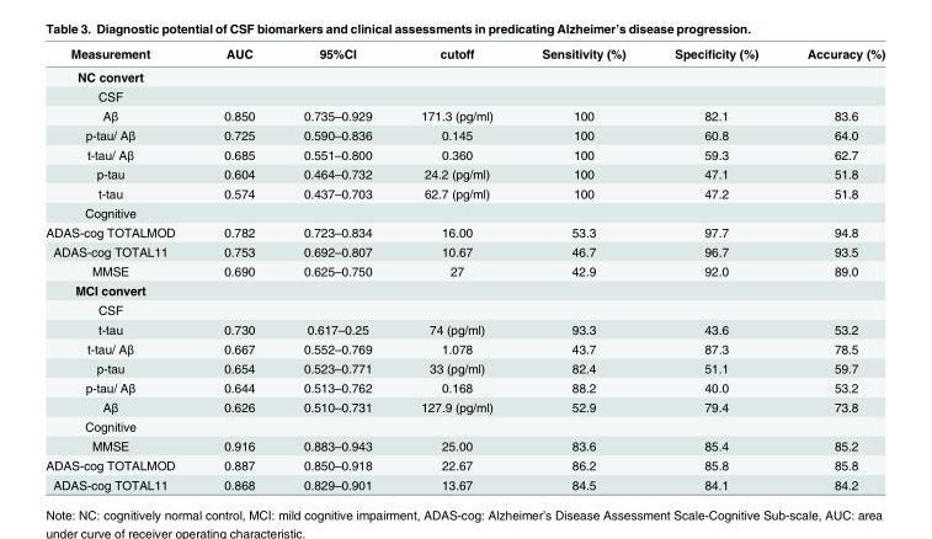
<table><thead><tr><td>Measurement</td><td>AUC</td><td>95%CI</td><td>cutoff</td><td>Sensitivity (%)</td><td>Specificity (%)</td><td>Accuracy (%)</td></tr></thead><tbody><tr><td colspan="7">NC convert</td></tr><tr><td colspan="7">CSF</td></tr><tr><td>Aβ</td><td>0.850</td><td>0.735–0.929</td><td>171.3 (pg/ml)</td><td>100</td><td>82.1</td><td>83.6</td></tr><tr><td>p-tau/ Aβ</td><td>0.725</td><td>0.590–0.836</td><td>0.145</td><td>100</td><td>60.8</td><td>64.0</td></tr><tr><td>t-tau/ Aβ</td><td>0.685</td><td>0.551–0.800</td><td>0.360</td><td>100</td><td>59.3</td><td>62.7</td></tr><tr><td>p-tau</td><td>0.604</td><td>0.464–0.732</td><td>24.2 (pg/ml)</td><td>100</td><td>47.1</td><td>51.8</td></tr><tr><td>t-tau</td><td>0.574</td><td>0.437–0.703</td><td>62.7 (pg/ml)</td><td>100</td><td>47.2</td><td>51.8</td></tr><tr><td colspan="7">Cognitive</td></tr><tr><td>ADAS-cog TOTALMOD</td><td>0.782</td><td>0.723–0.834</td><td>16.00</td><td>53.3</td><td>97.7</td><td>94.8</td></tr><tr><td>ADAS-cog TOTAL11</td><td>0.753</td><td>0.692–0.807</td><td>10.67</td><td>46.7</td><td>96.7</td><td>93.5</td></tr><tr><td>MMSE</td><td>0.690</td><td>0.625–0.750</td><td>27</td><td>42.9</td><td>92.0</td><td>89.0</td></tr><tr><td colspan="7">MCI convert</td></tr><tr><td colspan="7">CSF</td></tr><tr><td>t-tau</td><td>0.730</td><td>0.617–0.25</td><td>74 (pg/ml)</td><td>93.3</td><td>43.6</td><td>53.2</td></tr><tr><td>t-tau/ Aβ</td><td>0.667</td><td>0.552–0.769</td><td>1.078</td><td>43.7</td><td>87.3</td><td>78.5</td></tr><tr><td>p-tau</td><td>0.654</td><td>0.523–0.771</td><td>33 (pg/ml)</td><td>82.4</td><td>51.1</td><td>59.7</td></tr><tr><td>p-tau/ Aβ</td><td>0.644</td><td>0.513–0.762</td><td>0.168</td><td>88.2</td><td>40.0</td><td>53.2</td></tr><tr><td>Aβ</td><td>0.626</td><td>0.510–0.731</td><td>127.9 (pg/ml)</td><td>52.9</td><td>79.4</td><td>73.8</td></tr><tr><td colspan="7">Cognitive</td></tr><tr><td>MMSE</td><td>0.916</td><td>0.883–0.943</td><td>25.00</td><td>83.6</td><td>85.4</td><td>85.2</td></tr><tr><td>ADAS-cog TOTALMOD</td><td>0.887</td><td>0.850–0.918</td><td>22.67</td><td>86.2</td><td>85.8</td><td>85.8</td></tr><tr><td>ADAS-cog TOTAL11</td><td>0.868</td><td>0.829–0.901</td><td>13.67</td><td>84.5</td><td>84.1</td><td>84.2</td></tr></tbody></table>